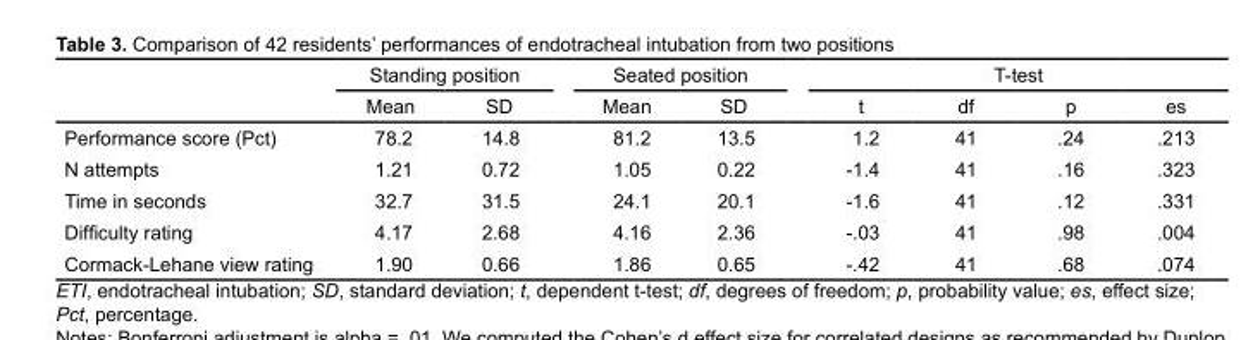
<table><thead><tr><td rowspan="2"></td><td colspan="2">Standing position</td><td colspan="2">Seated position</td><td colspan="4">T-test</td></tr><tr><td>Mean</td><td>SD</td><td>Mean</td><td>SD</td><td>t</td><td>df</td><td>p</td><td>es</td></tr></thead><tbody><tr><td>Performance score (Pct)</td><td>78.2</td><td>14.8</td><td>81.2</td><td>13.5</td><td>1.2</td><td>41</td><td>.24</td><td>.213</td></tr><tr><td>N attempts</td><td>1.21</td><td>0.72</td><td>1.05</td><td>0.22</td><td>-1.4</td><td>41</td><td>.16</td><td>.323</td></tr><tr><td>Time in seconds</td><td>32.7</td><td>31.5</td><td>24.1</td><td>20.1</td><td>-1.6</td><td>41</td><td>.12</td><td>.331</td></tr><tr><td>Difficulty rating</td><td>4.17</td><td>2.68</td><td>4.16</td><td>2.36</td><td>-.03</td><td>41</td><td>.98</td><td>.004</td></tr><tr><td>Cormack-Lehane view rating</td><td>1.90</td><td>0.66</td><td>1.86</td><td>0.65</td><td>-.42</td><td>41</td><td>.68</td><td>.074</td></tr></tbody></table>